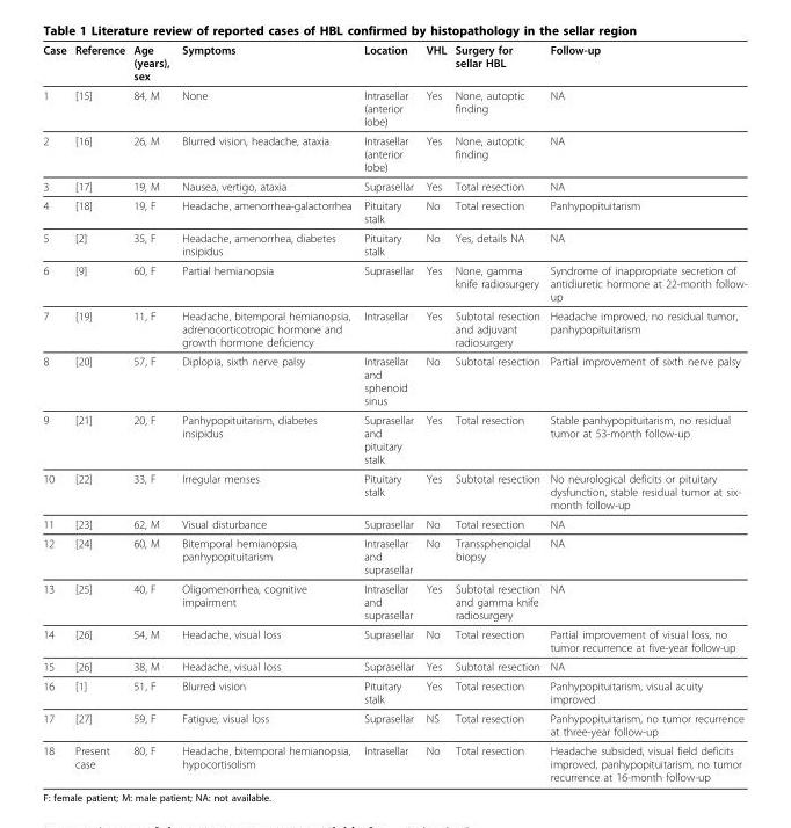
<table><thead><tr><td>Case</td><td>Reference</td><td>Age (years), sex</td><td>Symptoms</td><td>Location</td><td>VHL</td><td>Surgery for sellar HBL</td><td>Follow-up</td></tr></thead><tbody><tr><td>1</td><td>[15]</td><td>84, M</td><td>None</td><td>Intrasellar (anterior lobe)</td><td>Yes</td><td>None, autoptic finding</td><td>NA</td></tr><tr><td>2</td><td>[16]</td><td>26, M</td><td>Blurred vision, headache, ataxia</td><td>Intrasellar (anterior lobe)</td><td>Yes</td><td>None, autoptic finding</td><td>NA</td></tr><tr><td>3</td><td>[17]</td><td>19, M</td><td>Nausea, vertigo, ataxia</td><td>Suprasellar</td><td>Yes</td><td>Total resection</td><td>NA</td></tr><tr><td>4</td><td>[18]</td><td>19, F</td><td>Headache, amenorrhea-galactorrhea</td><td>Pituitary stalk</td><td>No</td><td>Total resection</td><td>Panhypopituitarism</td></tr><tr><td>5</td><td>[2]</td><td>35, F</td><td>Headache, amenorrhea, diabetes insipidus</td><td>Pituitary stalk</td><td>No</td><td>Yes, details NA</td><td>NA</td></tr><tr><td>6</td><td>[9]</td><td>60, F</td><td>Partial hemianopsia</td><td>Suprasellar</td><td>Yes</td><td>None, gamma knife radiosurgery</td><td>Syndrome of inappropriate secretion of antidiuretic hormone at 22-month follow- up</td></tr><tr><td>7</td><td>[19]</td><td>11, F</td><td>Headache, bitemporal hemianopsia, adrenocorticotropic hormone and growth hormone deficiency</td><td>Intrasellar</td><td>Yes</td><td>Subtotal resection and adjuvant radiosurgery</td><td>Headache improved, no residual tumor, panhypopituitarism</td></tr><tr><td>8</td><td>[20]</td><td>57, F</td><td>Diplopia, sixth nerve palsy</td><td>Intrasellar and sphenoid sinus</td><td>No</td><td>Subtotal resection</td><td>Partial improvement of sixth nerve palsy</td></tr><tr><td>9</td><td>[21]</td><td>20, F</td><td>Panhypopituitarism, diabetes insipidus</td><td>Suprasellar and pituitary stalk</td><td>Yes</td><td>Total resection</td><td>Stable panhypopituitarism, no residual tumor at 53-month follow-up</td></tr><tr><td>10</td><td>[22]</td><td>33, F</td><td>Irregular menses</td><td>Pituitary stalk</td><td>Yes</td><td>Subtotal resection</td><td>No neurological deficits or pituitary dysfunction, stable residual tumor at six- month follow-up</td></tr><tr><td>11</td><td>[23]</td><td>62, M</td><td>Visual disturbance</td><td>Suprasellar</td><td>No</td><td>Total resection</td><td>NA</td></tr><tr><td>12</td><td>[24]</td><td>60, M</td><td>Bitemporal hemianopsia, panhypopituitarism</td><td>Intrasellar and suprasellar</td><td>No</td><td>Transsphenoidal biopsy</td><td>NA</td></tr><tr><td>13</td><td>[25]</td><td>40, F</td><td>Oligomenorrhea, cognitive impairment</td><td>Intrasellar and suprasellar</td><td>Yes</td><td>Subtotal resection and gamma knife radiosurgery</td><td>NA</td></tr><tr><td>14</td><td>[26]</td><td>54, M</td><td>Headache, visual loss</td><td>Suprasellar</td><td>No</td><td>Total resection</td><td>Partial improvement of visual loss, no tumor recurrence at five-year follow-up</td></tr><tr><td>15</td><td>[26]</td><td>38, M</td><td>Headache, visual loss</td><td>Suprasellar</td><td>Yes</td><td>Subtotal resection</td><td>NA</td></tr><tr><td>16</td><td>[1]</td><td>51, F</td><td>Blurred vision</td><td>Pituitary stalk</td><td>Yes</td><td>Total resection</td><td>Panhypopituitarism, visual acuity improved</td></tr><tr><td>17</td><td>[27]</td><td>59, F</td><td>Fatigue, visual loss</td><td>Suprasellar</td><td>NS</td><td>Total resection</td><td>Panhypopituitarism, no tumor recurrence at three-year follow-up</td></tr><tr><td>18</td><td>Present case</td><td>80, F</td><td>Headache, bitemporal hemianopsia, hypocortisolism</td><td>Intrasellar</td><td>No</td><td>Total resection</td><td>Headache subsided, visual field deficits improved, panhypopituitarism, no tumor recurrence at 16-month follow-up</td></tr></tbody></table>